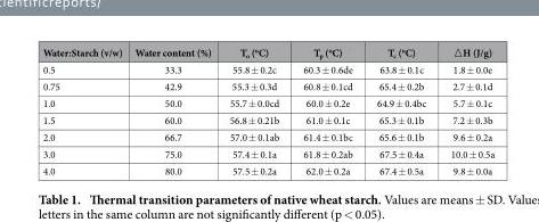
<table><thead><tr><td>Water:Starch (v/w)</td><td>Water content (%)</td><td>T<sub>o</sub> (<sup>o</sup>C)</td><td>T<sub>p</sub> (<sup>o</sup>C)</td><td>T<sub>c</sub> (<sup>o</sup>C)</td><td>ΔH (J/g)</td></tr></thead><tbody><tr><td>0.5</td><td>33.3</td><td>55.8 ± 0.2c</td><td>60.3 ± 0.6de</td><td>63.8 ± 0.1c</td><td>1.8 ± 0.0e</td></tr><tr><td>0.75</td><td>42.9</td><td>55.3 ± 0.3d</td><td>60.8 ± 0.1cd</td><td>65.4 ± 0.2b</td><td>2.7 ± 0.1d</td></tr><tr><td>1.0</td><td>50.0</td><td>55.7 ± 0.0cd</td><td>60.0 ± 0.2e</td><td>64.9 ± 0.4bc</td><td>5.7 ± 0.1c</td></tr><tr><td>1.5</td><td>60.0</td><td>56.8 ± 0.21b</td><td>61.0 ± 0.1c</td><td>65.3 ± 0.1b</td><td>7.2 ± 0.3b</td></tr><tr><td>2.0</td><td>66.7</td><td>57.0 ± 0.1ab</td><td>61.4 ± 0.1bc</td><td>65.6 ± 0.1b</td><td>9.6 ± 0.2a</td></tr><tr><td>3.0</td><td>75.0</td><td>57.4 ± 0.1a</td><td>61.8 ± 0.2ab</td><td>67.5 ± 0.4a</td><td>10.0 ± 0.5a</td></tr><tr><td>4.0</td><td>80.0</td><td>57.5 ± 0.2a</td><td>62.0 ± 0.2a</td><td>67.4 ± 0.5a</td><td>9.8 ± 0.0a</td></tr></tbody></table>